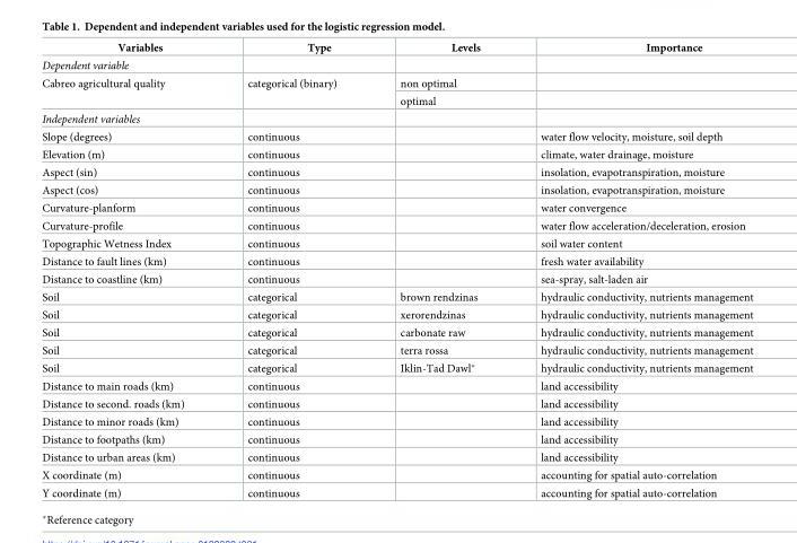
<table><thead><tr><td>Variables</td><td>Type</td><td>Levels</td><td>Importance</td></tr></thead><tbody><tr><td colspan="4">Dependent variable</td></tr><tr><td rowspan="2">Cabreo agricultural quality</td><td rowspan="2">categorical (binary)</td><td>non optimal</td><td></td></tr><tr><td>optimal</td><td></td></tr><tr><td colspan="4">Independent variables</td></tr><tr><td>Slope (degrees)</td><td>continuous</td><td></td><td>water flow velocity, moisture, soil depth</td></tr><tr><td>Elevation (m)</td><td>continuous</td><td></td><td>climate, water drainage, moisture</td></tr><tr><td>Aspect (sin)</td><td>continuous</td><td></td><td>insolation, evapotranspiration, moisture</td></tr><tr><td>Aspect (cos)</td><td>continuous</td><td></td><td>insolation, evapotranspiration, moisture</td></tr><tr><td>Curvature-planform</td><td>continuous</td><td></td><td>water convergence</td></tr><tr><td>Curvature-profile</td><td>continuous</td><td></td><td>water flow acceleration/deceleration, erosion</td></tr><tr><td>Topographic Wetness Index</td><td>continuous</td><td></td><td>soil water content</td></tr><tr><td>Distance to fault lines (km)</td><td>continuous</td><td></td><td>fresh water availability</td></tr><tr><td>Distance to coastline (km)</td><td>continuous</td><td></td><td>sea-spray, salt-laden air</td></tr><tr><td>Soil</td><td>categorical</td><td>brown rendzinas</td><td>hydraulic conductivity, nutrients management</td></tr><tr><td>Soil</td><td>categorical</td><td>xerorendzinas</td><td>hydraulic conductivity, nutrients management</td></tr><tr><td>Soil</td><td>categorical</td><td>carbonate raw</td><td>hydraulic conductivity, nutrients management</td></tr><tr><td>Soil</td><td>categorical</td><td>terra rossa</td><td>hydraulic conductivity, nutrients management</td></tr><tr><td>Soil</td><td>categorical</td><td>Iklin-Tad Dawl*</td><td>hydraulic conductivity, nutrients management</td></tr><tr><td>Distance to main roads (km)</td><td>continuous</td><td></td><td>land accessibility</td></tr><tr><td>Distance to second. roads (km)</td><td>continuous</td><td></td><td>land accessibility</td></tr><tr><td>Distance to minor roads (km)</td><td>continuous</td><td></td><td>land accessibility</td></tr><tr><td>Distance to footpaths (km)</td><td>continuous</td><td></td><td>land accessibility</td></tr><tr><td>Distance to urban areas (km)</td><td>continuous</td><td></td><td>land accessibility</td></tr><tr><td>X coordinate (m)</td><td>continuous</td><td></td><td>accounting for spatial auto-correlation</td></tr><tr><td>Y coordinate (m)</td><td>continuous</td><td></td><td>accounting for spatial auto-correlation</td></tr></tbody></table>